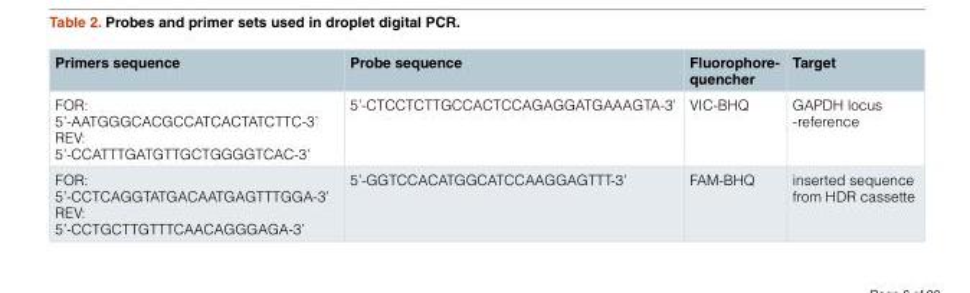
<table><thead><tr><td>Primers sequence</td><td>Probe sequence</td><td>Fluorophore- quencher</td><td>Target</td></tr></thead><tbody><tr><td>FOR: 5’-AATGGGCACGCCATCACTATCTTC-3’ REV: 5’-CCATTTGATGTTGCTGGGGTCAC-3’</td><td>5’-CTCCTCTTGCCACTCCAGAGGATGAAAGTA-3’</td><td>VIC-BHQ</td><td>GAPDH locus -reference</td></tr><tr><td>FOR: 5’-CCTCAGGTATGACAATGAGTTTGGA-3’ REV: 5’-CCTGCTTGTTTCAACAGGGAGA-3’</td><td>5’-GGTCCACATGGCATCCAAGGAGTTT-3’</td><td>FAM-BHQ</td><td>inserted sequence from HDR cassette</td></tr></tbody></table>